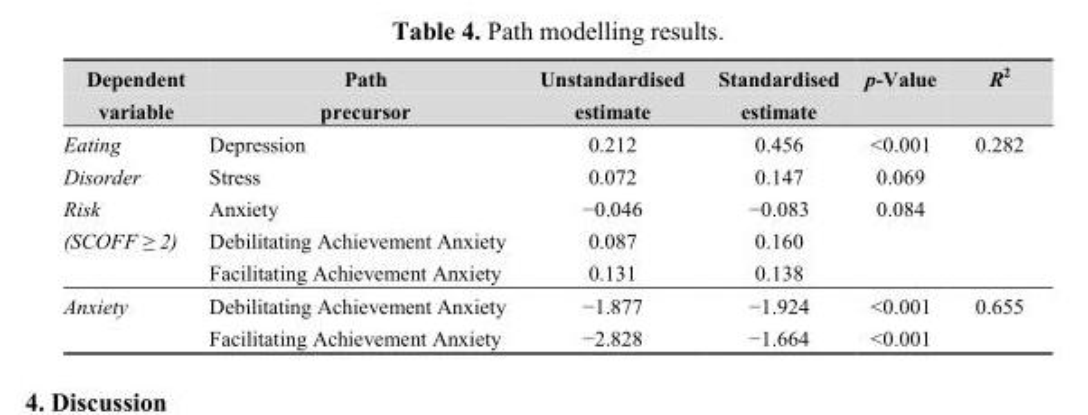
<table><thead><tr><td>Dependent variable</td><td>Path precursor</td><td>Unstandardised estimate</td><td>Standardised estimate</td><td>p-Value</td><td>R<sup>2</sup></td></tr></thead><tbody><tr><td rowspan="5">Eating Disorder Risk (SCOFF ≥ 2)</td><td>Depression</td><td>0.212</td><td>0.456</td><td>&lt;0.001</td><td rowspan="5">0.282</td></tr><tr><td>Stress</td><td>0.072</td><td>0.147</td><td>0.069</td></tr><tr><td>Anxiety</td><td>−0.046</td><td>−0.083</td><td>0.084</td></tr><tr><td>Debilitating Achievement Anxiety</td><td>0.087</td><td>0.160</td><td></td></tr><tr><td>Facilitating Achievement Anxiety</td><td>0.131</td><td>0.138</td><td></td></tr><tr><td rowspan="2">Anxiety</td><td>Debilitating Achievement Anxiety</td><td>−1.877</td><td>−1.924</td><td>&lt;0.001</td><td rowspan="2">0.655</td></tr><tr><td>Facilitating Achievement Anxiety</td><td>−2.828</td><td>−1.664</td><td>&lt;0.001</td></tr></tbody></table>